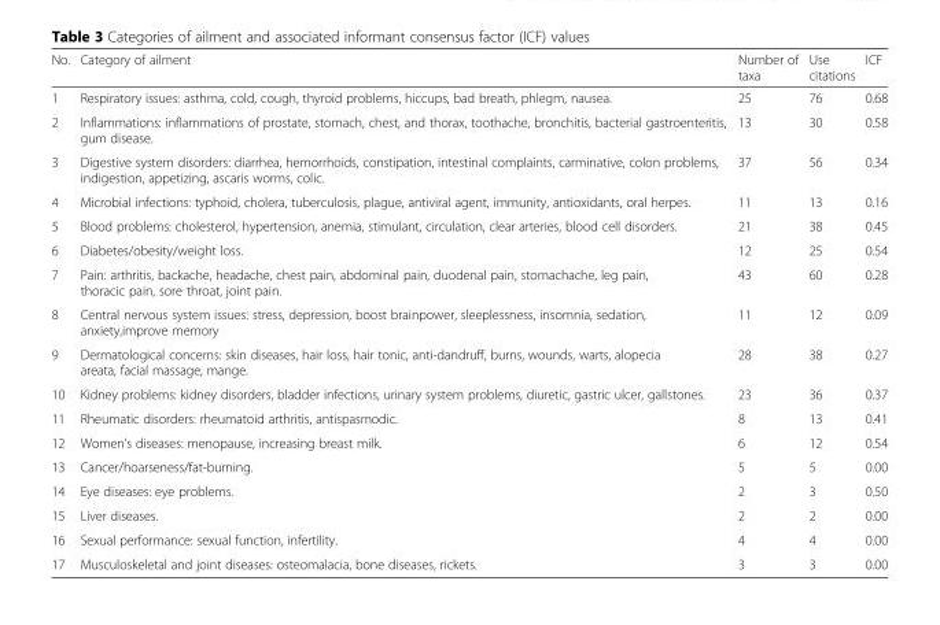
<table><thead><tr><td>No.</td><td>Category of ailment</td><td>Number of taxa</td><td>Use citations</td><td>ICF</td></tr></thead><tbody><tr><td>1</td><td>Respiratory issues: asthma, cold, cough, thyroid problems, hiccups, bad breath, phlegm, nausea.</td><td>25</td><td>76</td><td>0.68</td></tr><tr><td>2</td><td>Inflammations: inflammations of prostate, stomach, chest, and thorax, toothache, bronchitis, bacterial gastroenteritis, gum disease.</td><td>13</td><td>30</td><td>0.58</td></tr><tr><td>3</td><td>Digestive system disorders: diarrhea, hemorrhoids, constipation, intestinal complaints, carminative, colon problems, indigestion, appetizing, ascaris worms, colic.</td><td>37</td><td>56</td><td>0.34</td></tr><tr><td>4</td><td>Microbial infections: typhoid, cholera, tuberculosis, plague, antiviral agent, immunity, antioxidants, oral herpes.</td><td>11</td><td>13</td><td>0.16</td></tr><tr><td>5</td><td>Blood problems: cholesterol, hypertension, anemia, stimulant, circulation, clear arteries, blood cell disorders.</td><td>21</td><td>38</td><td>0.45</td></tr><tr><td>6</td><td>Diabetes/obesity/weight loss.</td><td>12</td><td>25</td><td>0.54</td></tr><tr><td>7</td><td>Pain: arthritis, backache, headache, chest pain, abdominal pain, duodenal pain, stomachache, leg pain, thoracic pain, sore throat, joint pain.</td><td>43</td><td>60</td><td>0.28</td></tr><tr><td>8</td><td>Central nervous system issues: stress, depression, boost brainpower, sleeplessness, insomnia, sedation, anxiety,improve memory</td><td>11</td><td>12</td><td>0.09</td></tr><tr><td>9</td><td>Dermatological concerns: skin diseases, hair loss, hair tonic, anti-dandruff, burns, wounds, warts, alopecia areata, facial massage, mange.</td><td>28</td><td>38</td><td>0.27</td></tr><tr><td>10</td><td>Kidney problems: kidney disorders, bladder infections, urinary system problems, diuretic, gastric ulcer, gallstones.</td><td>23</td><td>36</td><td>0.37</td></tr><tr><td>11</td><td>Rheumatic disorders: rheumatoid arthritis, antispasmodic.</td><td>8</td><td>13</td><td>0.41</td></tr><tr><td>12</td><td>Women’s diseases: menopause, increasing breast milk.</td><td>6</td><td>12</td><td>0.54</td></tr><tr><td>13</td><td>Cancer/hoarseness/fat-burning.</td><td>5</td><td>5</td><td>0.00</td></tr><tr><td>14</td><td>Eye diseases: eye problems.</td><td>2</td><td>3</td><td>0.50</td></tr><tr><td>15</td><td>Liver diseases.</td><td>2</td><td>2</td><td>0.00</td></tr><tr><td>16</td><td>Sexual performance: sexual function, infertility.</td><td>4</td><td>4</td><td>0.00</td></tr><tr><td>17</td><td>Musculoskeletal and joint diseases: osteomalacia, bone diseases, rickets.</td><td>3</td><td>3</td><td>0.00</td></tr></tbody></table>